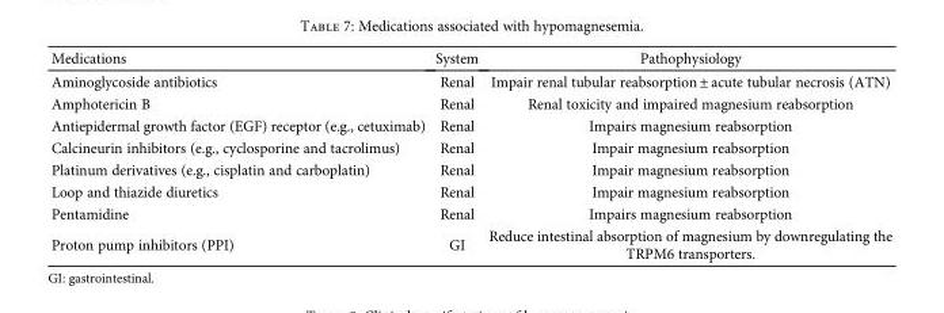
<table><thead><tr><td>Medications</td><td>System</td><td>Pathophysiology</td></tr></thead><tbody><tr><td>Aminoglycoside antibiotics</td><td>Renal</td><td>Impair renal tubular reabsorption ± acute tubular necrosis (ATN)</td></tr><tr><td>Amphotericin B</td><td>Renal</td><td>Renal toxicity and impaired magnesium reabsorption</td></tr><tr><td>Antiepidermal growth factor (EGF) receptor (e.g., cetuximab)</td><td>Renal</td><td>Impairs magnesium reabsorption</td></tr><tr><td>Calcineurin inhibitors (e.g., cyclosporine and tacrolimus)</td><td>Renal</td><td>Impair magnesium reabsorption</td></tr><tr><td>Platinum derivatives (e.g., cisplatin and carboplatin)</td><td>Renal</td><td>Impair magnesium reabsorption</td></tr><tr><td>Loop and thiazide diuretics</td><td>Renal</td><td>Impair magnesium reabsorption</td></tr><tr><td>Pentamidine</td><td>Renal</td><td>Impairs magnesium reabsorption</td></tr><tr><td>Proton pump inhibitors (PPI)</td><td>GI</td><td>Reduce intestinal absorption of magnesium by downregulating the TRPM6 transporters.</td></tr></tbody></table>